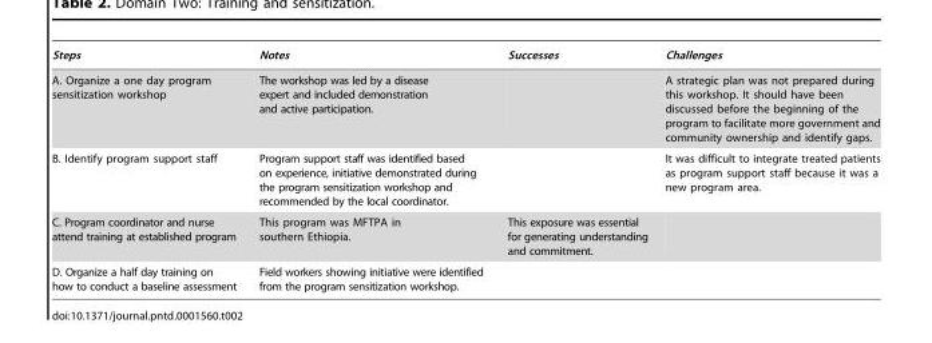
<table><thead><tr><td>Steps</td><td>Notes</td><td>Successes</td><td>Challenges</td></tr></thead><tbody><tr><td>A. Organize a one day program sensitization workshop</td><td>The workshop was led by a disease expert and included demonstration and active participation.</td><td></td><td>A strategic plan was not prepared during this workshop. It should have been discussed before the beginning of the program to facilitate more government and community ownership and identify gaps.</td></tr><tr><td>B. Identify program support staff</td><td>Program support staff was identified based on experience, initiative demonstrated during the program sensitization workshop and recommended by the local coordinator.</td><td></td><td>It was difficult to integrate treated patients as program support staff because it was a new program area.</td></tr><tr><td>C. Program coordinator and nurse attend training at established program</td><td>This program was MFTPA in southern Ethiopia.</td><td>This exposure was essential for generating understanding and commitment.</td><td></td></tr><tr><td>D. Organize a half day training on how to conduct a baseline assessment</td><td>Field workers showing initiative were identified from the program sensitization workshop.</td><td></td><td></td></tr></tbody></table>